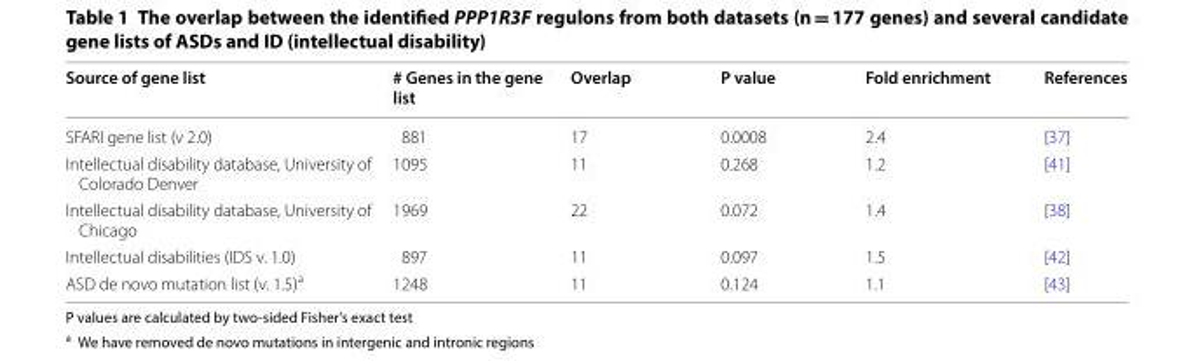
<table><thead><tr><td>Source of gene list</td><td># Genes in the gene list</td><td>Overlap</td><td>P value</td><td>Fold enrichment</td><td>References</td></tr></thead><tbody><tr><td>SFARI gene list (v 2.0)</td><td>881</td><td>17</td><td>0.0008</td><td>2.4</td><td>[37]</td></tr><tr><td>Intellectual disability database, University of Colorado Denver</td><td>1095</td><td>11</td><td>0.268</td><td>1.2</td><td>[41]</td></tr><tr><td>Intellectual disability database, University of Chicago</td><td>1969</td><td>22</td><td>0.072</td><td>1.4</td><td>[38]</td></tr><tr><td>Intellectual disabilities (IDS v. 1.0)</td><td>897</td><td>11</td><td>0.097</td><td>1.5</td><td>[42]</td></tr><tr><td>ASD de novo mutation list (v. 1.5)<sup>a</sup></td><td>1248</td><td>11</td><td>0.124</td><td>1.1</td><td>[43]</td></tr></tbody></table>